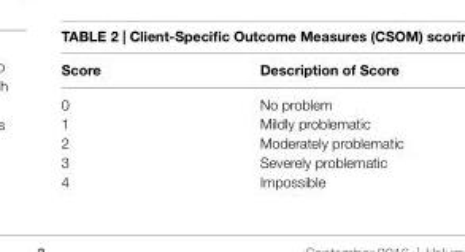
<table><thead><tr><td>score</td><td>Description of score</td></tr></thead><tbody><tr><td>0</td><td>No problem</td></tr><tr><td>1</td><td>Mildly problematic</td></tr><tr><td>2</td><td>Moderately problematic</td></tr><tr><td>3</td><td>Severely problematic</td></tr><tr><td>4</td><td>Impossible</td></tr></tbody></table>